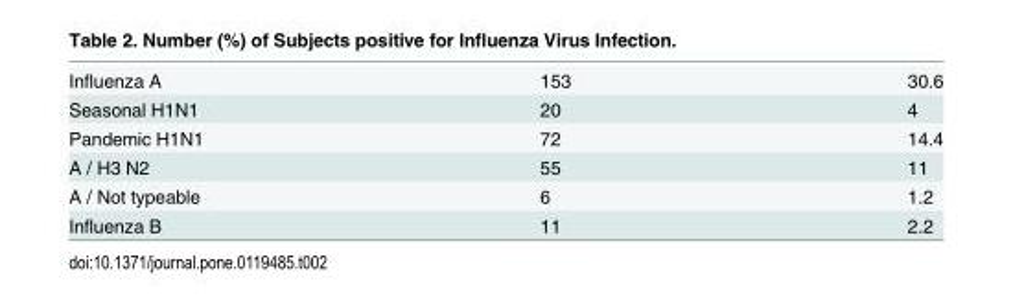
<table><tbody><tr><td>Influenza A</td><td>153</td><td>30.6</td></tr><tr><td>Seasonal H1N1</td><td>20</td><td>4</td></tr><tr><td>Pandemic H1N1</td><td>72</td><td>14.4</td></tr><tr><td>A / H3 N2</td><td>55</td><td>11</td></tr><tr><td>A / Not typeable</td><td>6</td><td>1.2</td></tr><tr><td>Influenza B</td><td>11</td><td>2.2</td></tr></tbody></table>